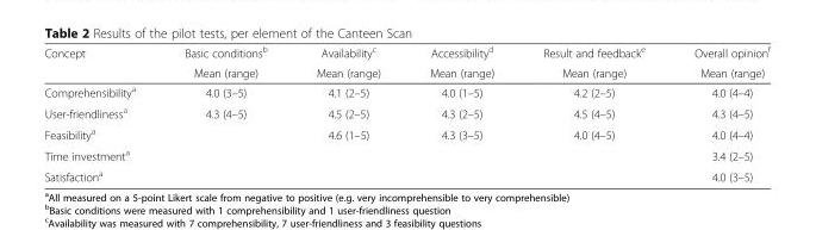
<table><thead><tr><td rowspan="2">Concept</td><td rowspan="2">Basic conditions<sup>b</sup> Mean (range)</td><td rowspan="2">Availability<sup>c</sup> Mean (range)</td><td rowspan="2">Accessibility<sup>d</sup> Mean (range)</td><td rowspan="2">Result and feedback<sup>e</sup> Mean (range)</td><td rowspan="2">Overall opinion<sup>f</sup> Mean (range)</td></tr><tr></tr></thead><tbody><tr><td>Comprehensibility<sup>a</sup></td><td>4.0 (3–5)</td><td>4.1 (2–5)</td><td>4.0 (1–5)</td><td>4.2 (2–5)</td><td>4.0 (4–4)</td></tr><tr><td>User-friendliness<sup>a</sup></td><td>4.3 (4–5)</td><td>4.5 (2–5)</td><td>4.3 (2–5)</td><td>4.5 (4–5)</td><td>4.3 (4–5)</td></tr><tr><td>Feasibility<sup>a</sup></td><td></td><td>4.6 (1–5)</td><td>4.3 (3–5)</td><td>4.0 (4–5)</td><td>4.0 (4–4)</td></tr><tr><td>Time investment<sup>a</sup></td><td></td><td></td><td></td><td></td><td>3.4 (2–5)</td></tr><tr><td>Satisfaction<sup>a</sup></td><td></td><td></td><td></td><td></td><td>4.0 (3–5)</td></tr></tbody></table>